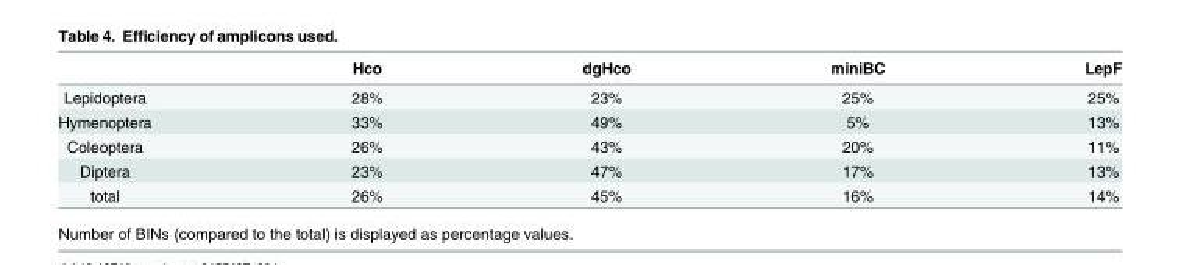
<table><thead><tr><td></td><td>Hco</td><td>dgHco</td><td>miniBC</td><td>LepF</td></tr></thead><tbody><tr><td>Lepidoptera</td><td>28%</td><td>23%</td><td>25%</td><td>25%</td></tr><tr><td>Hymenoptera</td><td>33%</td><td>49%</td><td>5%</td><td>13%</td></tr><tr><td>Coleoptera</td><td>26%</td><td>43%</td><td>20%</td><td>11%</td></tr><tr><td>Diptera</td><td>23%</td><td>47%</td><td>17%</td><td>13%</td></tr><tr><td>total</td><td>26%</td><td>45%</td><td>16%</td><td>14%</td></tr></tbody></table>